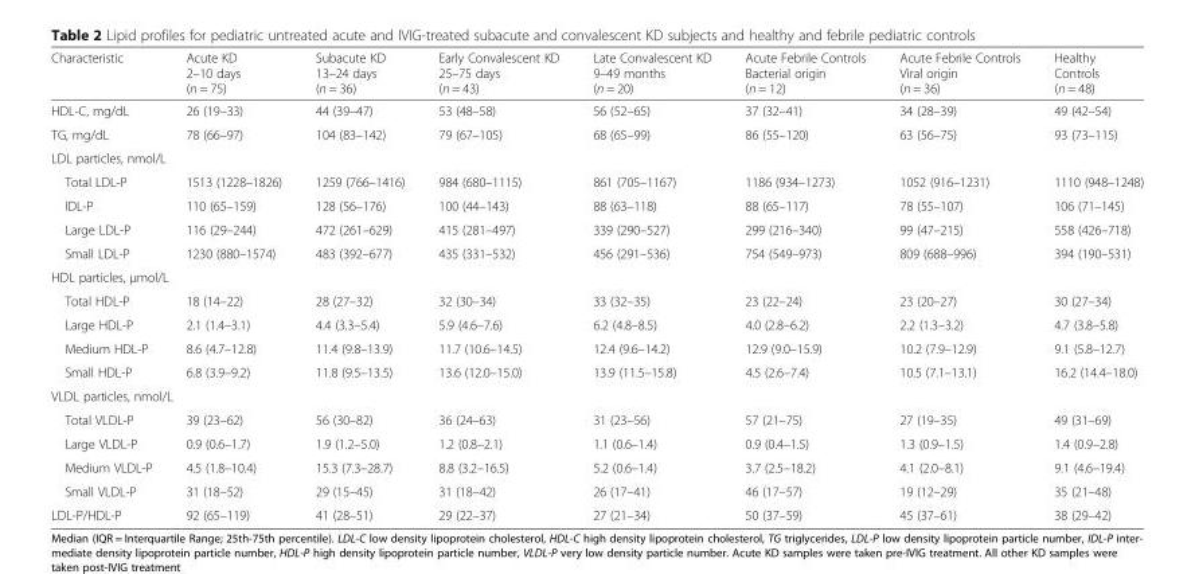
<table><thead><tr><td>Characteristic</td><td>Acute KD 2–10 days (n = 75)</td><td>Subacute KD 13–24 days (n = 36)</td><td>Early Convalescent KD 25–75 days (n = 43)</td><td>Late Convalescent KD 9–49 months (n = 20)</td><td>Acute Febrile Controls Bacterial origin (n = 12)</td><td>Acute Febrile Controls Viral origin (n = 36)</td><td>Healthy Controls (n = 48)</td></tr></thead><tbody><tr><td>HDL-C, mg/dL</td><td>26 (19–33)</td><td>44 (39–47)</td><td>53 (48–58)</td><td>56 (52–65)</td><td>37 (32–41)</td><td>34 (28–39)</td><td>49 (42–54)</td></tr><tr><td>TG, mg/dL</td><td>78 (66–97)</td><td>104 (83–142)</td><td>79 (67–105)</td><td>68 (65–99)</td><td>86 (55–120)</td><td>63 (56–75)</td><td>93 (73–115)</td></tr><tr><td colspan="8">LDL particles, nmol/L</td></tr><tr><td>Total LDL-P</td><td>1513 (1228–1826)</td><td>1259 (766–1416)</td><td>984 (680–1115)</td><td>861 (705–1167)</td><td>1186 (934–1273)</td><td>1052 (916–1231)</td><td>1110 (948–1248)</td></tr><tr><td>IDL-P</td><td>110 (65–159)</td><td>128 (56–176)</td><td>100 (44–143)</td><td>88 (63–118)</td><td>88 (65–117)</td><td>78 (55–107)</td><td>106 (71–145)</td></tr><tr><td>Large LDL-P</td><td>116 (29–244)</td><td>472 (261–629)</td><td>415 (281–497)</td><td>339 (290–527)</td><td>299 (216–340)</td><td>99 (47–215)</td><td>558 (426–718)</td></tr><tr><td>Small LDL-P</td><td>1230 (880–1574)</td><td>483 (392–677)</td><td>435 (331–532)</td><td>456 (291–536)</td><td>754 (549–973)</td><td>809 (688–996)</td><td>394 (190–531)</td></tr><tr><td colspan="8">HDL particles, μmol/L</td></tr><tr><td>Total HDL-P</td><td>18 (14–22)</td><td>28 (27–32)</td><td>32 (30–34)</td><td>33 (32–35)</td><td>23 (22–24)</td><td>23 (20–27)</td><td>30 (27–34)</td></tr><tr><td>Large HDL-P</td><td>2.1 (1.4–3.1)</td><td>4.4 (3.3–5.4)</td><td>5.9 (4.6–7.6)</td><td>6.2 (4.8–8.5)</td><td>4.0 (2.8–6.2)</td><td>2.2 (1.3–3.2)</td><td>4.7 (3.8–5.8)</td></tr><tr><td>Medium HDL-P</td><td>8.6 (4.7–12.8)</td><td>11.4 (9.8–13.9)</td><td>11.7 (10.6–14.5)</td><td>12.4 (9.6–14.2)</td><td>12.9 (9.0–15.9)</td><td>10.2 (7.9–12.9)</td><td>9.1 (5.8–12.7)</td></tr><tr><td>Small HDL-P</td><td>6.8 (3.9–9.2)</td><td>11.8 (9.5–13.5)</td><td>13.6 (12.0–15.0)</td><td>13.9 (11.5–15.8)</td><td>4.5 (2.6–7.4)</td><td>10.5 (7.1–13.1)</td><td>16.2 (14.4–18.0)</td></tr><tr><td colspan="8">VLDL particles, nmol/L</td></tr><tr><td>Total VLDL-P</td><td>39 (23–62)</td><td>56 (30–82)</td><td>36 (24–63)</td><td>31 (23–56)</td><td>57 (21–75)</td><td>27 (19–35)</td><td>49 (31–69)</td></tr><tr><td>Large VLDL-P</td><td>0.9 (0.6–1.7)</td><td>1.9 (1.2–5.0)</td><td>1.2 (0.8–2.1)</td><td>1.1 (0.6–1.4)</td><td>0.9 (0.4–1.5)</td><td>1.3 (0.9–1.5)</td><td>1.4 (0.9–2.8)</td></tr><tr><td>Medium VLDL-P</td><td>4.5 (1.8–10.4)</td><td>15.3 (7.3–28.7)</td><td>8.8 (3.2–16.5)</td><td>5.2 (0.6–1.4)</td><td>3.7 (2.5–18.2)</td><td>4.1 (2.0–8.1)</td><td>9.1 (4.6–19.4)</td></tr><tr><td>Small VLDL-P</td><td>31 (18–52)</td><td>29 (15–45)</td><td>31 (18–42)</td><td>26 (17–41)</td><td>46 (17–57)</td><td>19 (12–29)</td><td>35 (21–48)</td></tr><tr><td>LDL-P/HDL-P</td><td>92 (65–119)</td><td>41 (28–51)</td><td>29 (22–37)</td><td>27 (21–34)</td><td>50 (37–59)</td><td>45 (37–61)</td><td>38 (29–42)</td></tr></tbody></table>